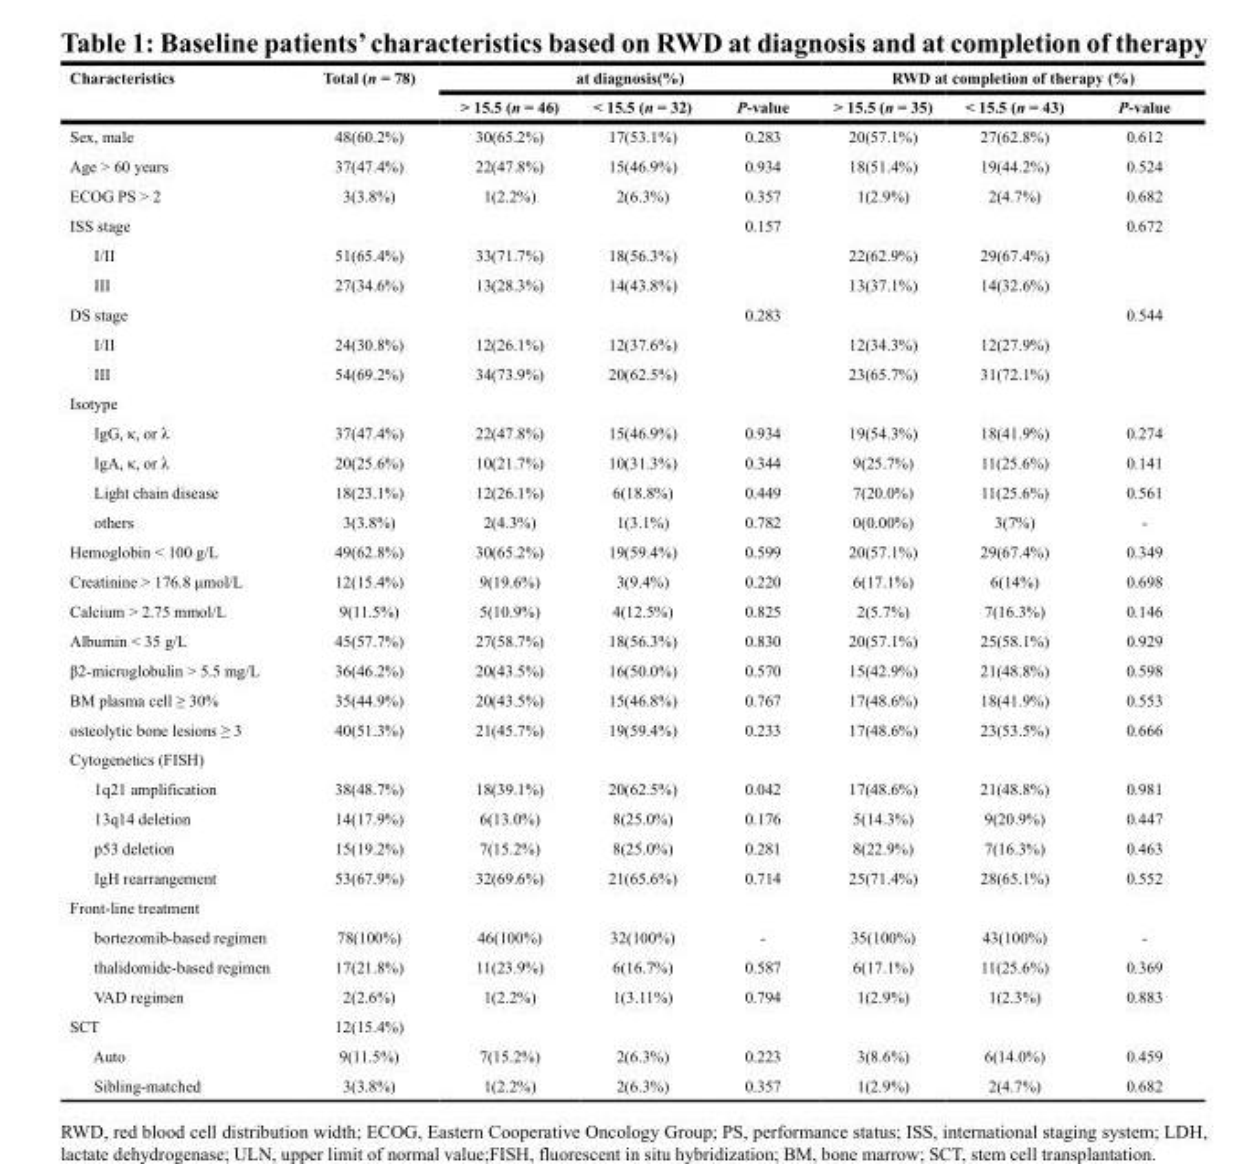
<table><thead><tr><td rowspan="2">Characteristics</td><td rowspan="2">Total (n = 78)</td><td colspan="3">at diagnosis(%)</td><td colspan="3">RWD at completion of therapy (%)</td></tr><tr><td>&gt; 15.5 (n = 46)</td><td>&lt; 15.5 (n = 32)</td><td>P-value</td><td>&gt; 15.5 (n = 35)</td><td>&lt; 15.5 (n = 43)</td><td>P-value</td></tr></thead><tbody><tr><td>Sex, male</td><td>48(60.2%)</td><td>30(65.2%)</td><td>17(53.1%)</td><td>0.283</td><td>20(57.1%)</td><td>27(62.8%)</td><td>0.612</td></tr><tr><td>Age &gt; 60 years</td><td>37(47.4%)</td><td>22(47.8%)</td><td>15(46.9%)</td><td>0.934</td><td>18(51.4%)</td><td>19(44.2%)</td><td>0.524</td></tr><tr><td>ECOG PS &gt; 2</td><td>3(3.8%)</td><td>1(2.2%)</td><td>2(6.3%)</td><td>0.357</td><td>1(2.9%)</td><td>2(4.7%)</td><td>0.682</td></tr><tr><td>ISS stage</td><td></td><td></td><td></td><td>0.157</td><td></td><td></td><td>0.672</td></tr><tr><td>I/II</td><td>51(65.4%)</td><td>33(71.7%)</td><td>18(56.3%)</td><td></td><td>22(62.9%)</td><td>29(67.4%)</td><td></td></tr><tr><td>III</td><td>27(34.6%)</td><td>13(28.3%)</td><td>14(43.8%)</td><td></td><td>13(37.1%)</td><td>14(32.6%)</td><td></td></tr><tr><td>DS stage</td><td></td><td></td><td></td><td>0.283</td><td></td><td></td><td>0.544</td></tr><tr><td>I/II</td><td>24(30.8%)</td><td>12(26.1%)</td><td>12(37.6%)</td><td></td><td>12(34.3%)</td><td>12(27.9%)</td><td></td></tr><tr><td>III</td><td>54(69.2%)</td><td>34(73.9%)</td><td>20(62.5%)</td><td></td><td>23(65.7%)</td><td>31(72.1%)</td><td></td></tr><tr><td colspan="8">Isotype</td></tr><tr><td>IgG, κ, or λ</td><td>37(47.4%)</td><td>22(47.8%)</td><td>15(46.9%)</td><td>0.934</td><td>19(54.3%)</td><td>18(41.9%)</td><td>0.274</td></tr><tr><td>IgA, κ, or λ</td><td>20(25.6%)</td><td>10(21.7%)</td><td>10(31.3%)</td><td>0.344</td><td>9(25.7%)</td><td>11(25.6%)</td><td>0.141</td></tr><tr><td>Light chain disease</td><td>18(23.1%)</td><td>12(26.1%)</td><td>6(18.8%)</td><td>0.449</td><td>7(20.0%)</td><td>11(25.6%)</td><td>0.561</td></tr><tr><td>others</td><td>3(3.8%)</td><td>2(4.3%)</td><td>1(3.1%)</td><td>0.782</td><td>0(0.00%)</td><td>3(7%)</td><td>-</td></tr><tr><td>Hemoglobin &lt; 100 g/L</td><td>49(62.8%)</td><td>30(65.2%)</td><td>19(59.4%)</td><td>0.599</td><td>20(57.1%)</td><td>29(67.4%)</td><td>0.349</td></tr><tr><td>Creatinine &gt; 176.8 μmol/L</td><td>12(15.4%)</td><td>9(19.6%)</td><td>3(9.4%)</td><td>0.220</td><td>6(17.1%)</td><td>6(14%)</td><td>0.698</td></tr><tr><td>Calcium &gt; 2.75 mmol/L</td><td>9(11.5%)</td><td>5(10.9%)</td><td>4(12.5%)</td><td>0.825</td><td>2(5.7%)</td><td>7(16.3%)</td><td>0.146</td></tr><tr><td>Albumin &lt; 35 g/L</td><td>45(57.7%)</td><td>27(58.7%)</td><td>18(56.3%)</td><td>0.830</td><td>20(57.1%)</td><td>25(58.1%)</td><td>0.929</td></tr><tr><td>β2-microglobulin &gt; 5.5 mg/L</td><td>36(46.2%)</td><td>20(43.5%)</td><td>16(50.0%)</td><td>0.570</td><td>15(42.9%)</td><td>21(48.8%)</td><td>0.598</td></tr><tr><td>BM plasma cell ≥ 30%</td><td>35(44.9%)</td><td>20(43.5%)</td><td>15(46.8%)</td><td>0.767</td><td>17(48.6%)</td><td>18(41.9%)</td><td>0.553</td></tr><tr><td>osteolytic bone lesions ≥ 3</td><td>40(51.3%)</td><td>21(45.7%)</td><td>19(59.4%)</td><td>0.233</td><td>17(48.6%)</td><td>23(53.5%)</td><td>0.666</td></tr><tr><td colspan="8">Cytogenetics (FISH)</td></tr><tr><td>1q21 amplification</td><td>38(48.7%)</td><td>18(39.1%)</td><td>20(62.5%)</td><td>0.042</td><td>17(48.6%)</td><td>21(48.8%)</td><td>0.981</td></tr><tr><td>13q14 deletion</td><td>14(17.9%)</td><td>6(13.0%)</td><td>8(25.0%)</td><td>0.176</td><td>5(14.3%)</td><td>9(20.9%)</td><td>0.447</td></tr><tr><td>p53 deletion</td><td>15(19.2%)</td><td>7(15.2%)</td><td>8(25.0%)</td><td>0.281</td><td>8(22.9%)</td><td>7(16.3%)</td><td>0.463</td></tr><tr><td>IgH rearrangement</td><td>53(67.9%)</td><td>32(69.6%)</td><td>21(65.6%)</td><td>0.714</td><td>25(71.4%)</td><td>28(65.1%)</td><td>0.552</td></tr><tr><td colspan="8">Front-line treatment</td></tr><tr><td>bortezomib-based regimen</td><td>78(100%)</td><td>46(100%)</td><td>32(100%)</td><td>-</td><td>35(100%)</td><td>43(100%)</td><td>-</td></tr><tr><td>thalidomide-based regimen</td><td>17(21.8%)</td><td>11(23.9%)</td><td>6(16.7%)</td><td>0.587</td><td>6(17.1%)</td><td>11(25.6%)</td><td>0.369</td></tr><tr><td>VAD regimen</td><td>2(2.6%)</td><td>1(2.2%)</td><td>1(3.11%)</td><td>0.794</td><td>1(2.9%)</td><td>1(2.3%)</td><td>0.883</td></tr><tr><td>SCT</td><td>12(15.4%)</td><td></td><td></td><td></td><td></td><td></td><td></td></tr><tr><td>Auto</td><td>9(11.5%)</td><td>7(15.2%)</td><td>2(6.3%)</td><td>0.223</td><td>3(8.6%)</td><td>6(14.0%)</td><td>0.459</td></tr><tr><td>Sibling-matched</td><td>3(3.8%)</td><td>1(2.2%)</td><td>2(6.3%)</td><td>0.357</td><td>1(2.9%)</td><td>2(4.7%)</td><td>0.682</td></tr></tbody></table>